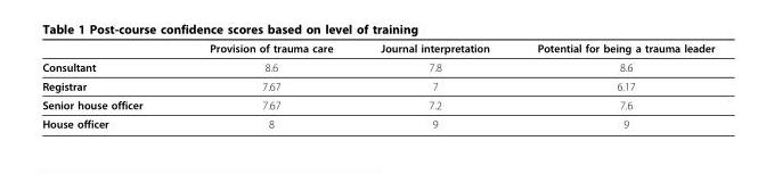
<table><thead><tr><td></td><td>Provision of trauma care</td><td>Journal interpretation</td><td>Potential for being a trauma leader</td></tr></thead><tbody><tr><td>Consultant</td><td>8.6</td><td>7.8</td><td>8.6</td></tr><tr><td>Registrar</td><td>7.67</td><td>7</td><td>6.17</td></tr><tr><td>Senior house officer</td><td>7.67</td><td>7.2</td><td>7.6</td></tr><tr><td>House officer</td><td>8</td><td>9</td><td>9</td></tr></tbody></table>